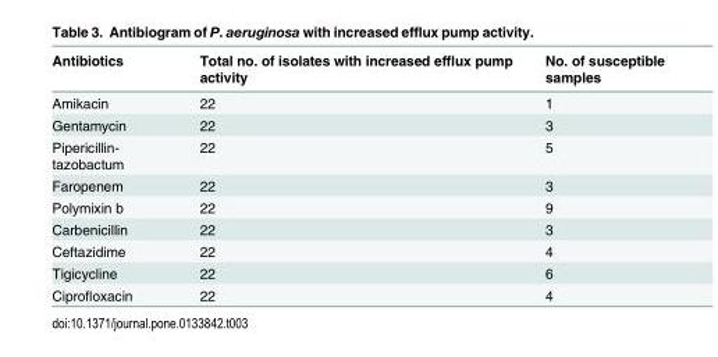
<table><thead><tr><td>Antibiotics</td><td>Total no. of isolates with increased efflux pump activity</td><td>No. of susceptible samples</td></tr></thead><tbody><tr><td>Amikacin</td><td>22</td><td>1</td></tr><tr><td>Gentamycin</td><td>22</td><td>3</td></tr><tr><td>Pipericillin- tazobactum</td><td>22</td><td>5</td></tr><tr><td>Faropenem</td><td>22</td><td>3</td></tr><tr><td>Polymixin b</td><td>22</td><td>9</td></tr><tr><td>Carbenicillin</td><td>22</td><td>3</td></tr><tr><td>Ceftazidime</td><td>22</td><td>4</td></tr><tr><td>Tigicycline</td><td>22</td><td>6</td></tr><tr><td>Ciprofloxacin</td><td>22</td><td>4</td></tr></tbody></table>